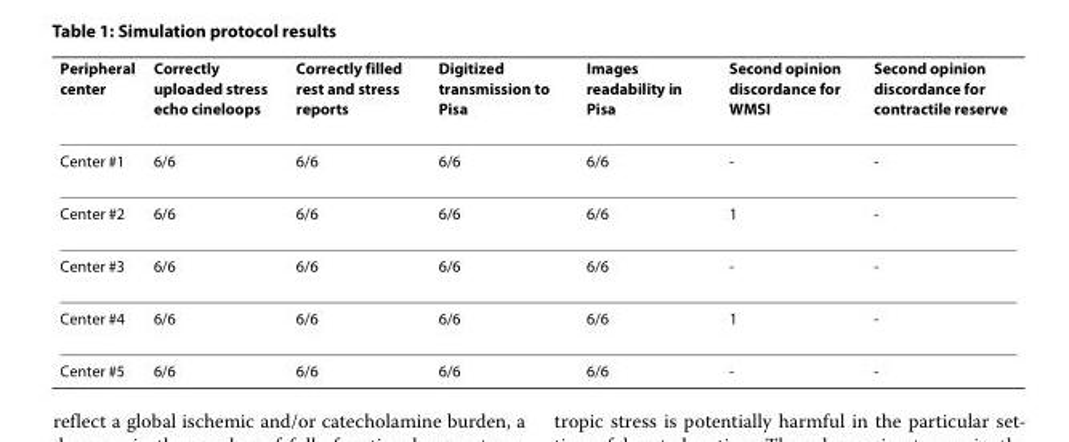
<table><thead><tr><td>Peripheral center</td><td>Correctly uploaded stress echo cineloops</td><td>Correctly filled rest and stress reports</td><td>Digitized transmission to Pisa</td><td>Images readability in Pisa</td><td>Second opinion discordance for WMSI</td><td>Second opinion discordance for contractile reserve</td></tr></thead><tbody><tr><td>Center #1</td><td>6/6</td><td>6/6</td><td>6/6</td><td>6/6</td><td>-</td><td>-</td></tr><tr><td>Center #2</td><td>6/6</td><td>6/6</td><td>6/6</td><td>6/6</td><td>1</td><td>-</td></tr><tr><td>Center #3</td><td>6/6</td><td>6/6</td><td>6/6</td><td>6/6</td><td>-</td><td>-</td></tr><tr><td>Center #4</td><td>6/6</td><td>6/6</td><td>6/6</td><td>6/6</td><td>1</td><td>-</td></tr><tr><td>Center #5</td><td>6/6</td><td>6/6</td><td>6/6</td><td>6/6</td><td>-</td><td>-</td></tr></tbody></table>